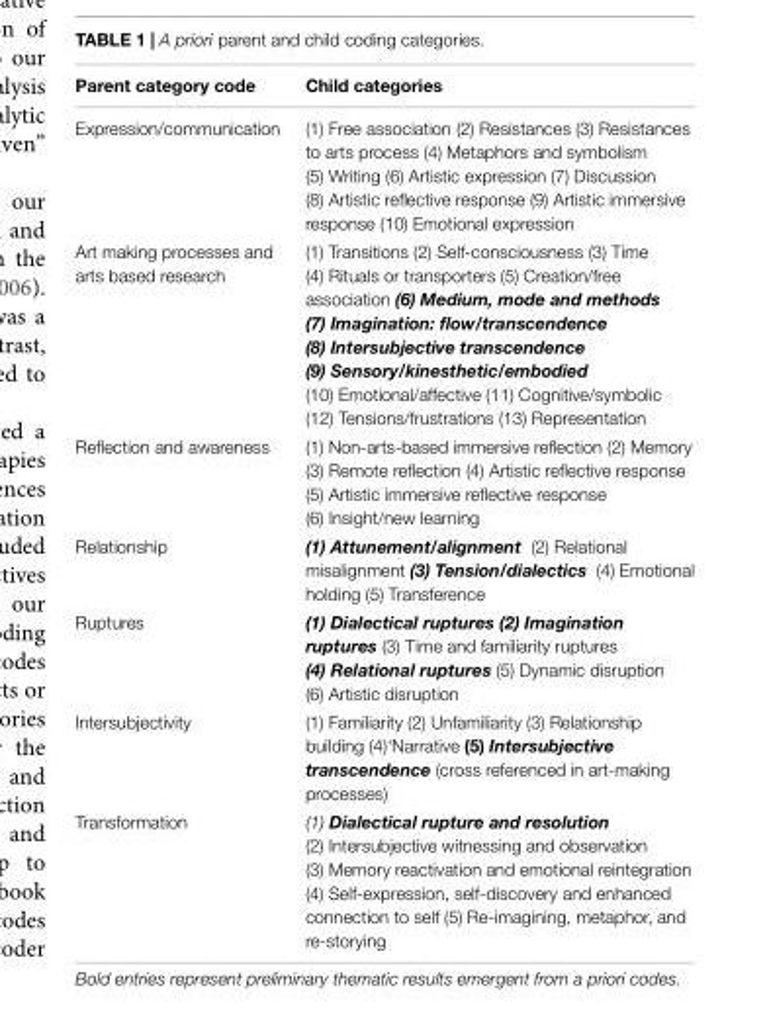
<table><thead><tr><td>Parent category code</td><td>Child categories</td></tr></thead><tbody><tr><td>Expression/communication</td><td>(1) Free association (2) Resistances (3) Resistances to arts process (4) Metaphors and symbolism (5) Writing (6) Artistic expression (7) Discussion (8) Artistic reflective response (9) Artistic immersive response (10) Emotional expression</td></tr><tr><td>Art making processes and arts based research</td><td>(1) Transitions (2) Self-consciousness (3) Time (4) Rituals or transporters (5) Creation/free association (6) Medium, mode and methods (7) Imagination: flow/transcendence (8) Intersubjective transcendence (9) Sensory/kinesthetic/embodied (10) Emotional/affective (11) Cognitive/symbolic (12) Tensions/frustrations (13) Representation</td></tr><tr><td>Reflection and awareness</td><td>(1) Non-arts-based immersive reflection (2) Memory (3) Remote reflection (4) Artistic reflective response (5) Artistic immersive reflective response (6) Insight/new learning</td></tr><tr><td>Relationship</td><td>(1) Attunement/alignment (2) Relational misalignment (3) Tension/dialectics (4) Emotional holding (5) Transference</td></tr><tr><td>Ruptures</td><td>(1) Dialectical ruptures (2) Imagination ruptures (3) Time and familiarity ruptures (4) Relational ruptures (5) Dynamic disruption (6) Artistic disruption</td></tr><tr><td>Intersubjectivity</td><td>(1) Familiarity (2) Unfamiliarity (3) Relationship building (4)‘Narrative (5) Intersubjective transcendence (cross referenced in art-making processes)</td></tr><tr><td>Transformation</td><td>(1) Dialectical rupture and resolution (2) Intersubjective witnessing and observation (3) Memory reactivation and emotional reintegration (4) Self-expression, self-discovery and enhanced connection to self (5) Re-imagining, metaphor, and re-storying</td></tr></tbody></table>